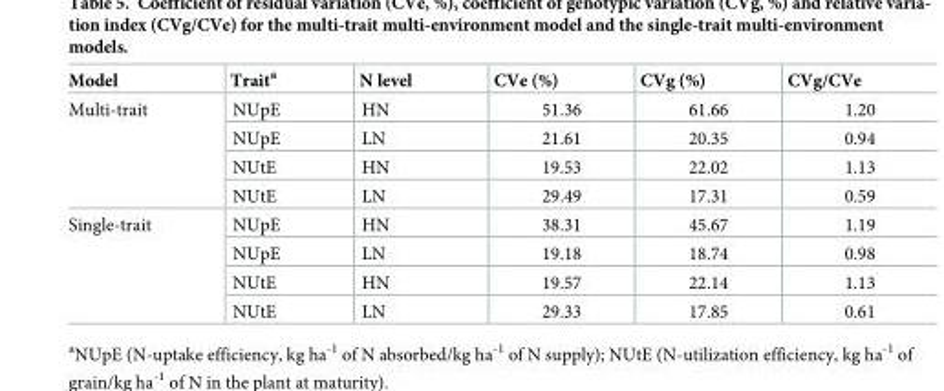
<table><thead><tr><td>Model</td><td>Trait<sup>a</sup></td><td>N level</td><td>CVe (%)</td><td>CVg (%)</td><td>CVg/CVe</td></tr></thead><tbody><tr><td rowspan="4">Multi-trait</td><td>NUpE</td><td>HN</td><td>51.36</td><td>61.66</td><td>1.20</td></tr><tr><td>NUpE</td><td>LN</td><td>21.61</td><td>20.35</td><td>0.94</td></tr><tr><td>NUtE</td><td>HN</td><td>19.53</td><td>22.02</td><td>1.13</td></tr><tr><td>NUtE</td><td>LN</td><td>29.49</td><td>17.31</td><td>0.59</td></tr><tr><td rowspan="4">Single-trait</td><td>NUpE</td><td>HN</td><td>38.31</td><td>45.67</td><td>1.19</td></tr><tr><td>NUpE</td><td>LN</td><td>19.18</td><td>18.74</td><td>0.98</td></tr><tr><td>NUtE</td><td>HN</td><td>19.57</td><td>22.14</td><td>1.13</td></tr><tr><td>NUtE</td><td>LN</td><td>29.33</td><td>17.85</td><td>0.61</td></tr></tbody></table>